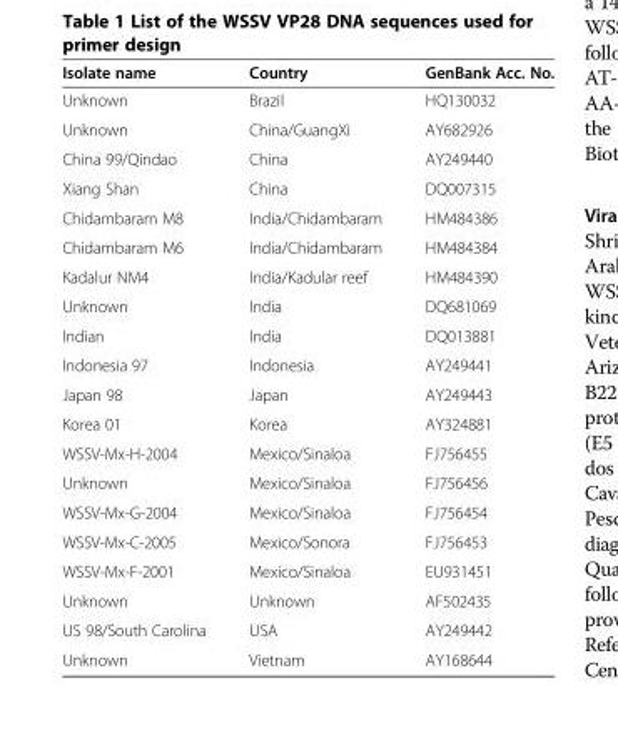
<table><thead><tr><td>Isolate name</td><td>Country</td><td>GenBank Acc. No.</td></tr></thead><tbody><tr><td>Unknown</td><td>Brazil</td><td>HQ130032</td></tr><tr><td>Unknown</td><td>China/GuangXi</td><td>AY682926</td></tr><tr><td>China 99/Qindao</td><td>China</td><td>AY249440</td></tr><tr><td>Xiang Shan</td><td>China</td><td>DQ007315</td></tr><tr><td>Chidambaram M8</td><td>India/Chidambaram</td><td>HM484386</td></tr><tr><td>Chidambaram M6</td><td>India/Chidambaram</td><td>HM484384</td></tr><tr><td>Kadalur NM4</td><td>India/Kadular reef</td><td>HM484390</td></tr><tr><td>Unknown</td><td>India</td><td>DQ681069</td></tr><tr><td>Indian</td><td>India</td><td>DQ013881</td></tr><tr><td>Indonesia 97</td><td>Indonesia</td><td>AY249441</td></tr><tr><td>Japan 98</td><td>Japan</td><td>AY249443</td></tr><tr><td>Korea 01</td><td>Korea</td><td>AY324881</td></tr><tr><td>WSSV-Mx-H-2004</td><td>Mexico/Sinaloa</td><td>FJ756455</td></tr><tr><td>Unknown</td><td>Mexico/Sinaloa</td><td>FJ756456</td></tr><tr><td>WSSV-Mx-G-2004</td><td>Mexico/Sinaloa</td><td>FJ756454</td></tr><tr><td>WSSV-Mx-C-2005</td><td>Mexico/Sonora</td><td>FJ756453</td></tr><tr><td>WSSV-Mx-F-2001</td><td>Mexico/Sinaloa</td><td>EU931451</td></tr><tr><td>Unknown</td><td>Unknown</td><td>AF502435</td></tr><tr><td>US 98/South Carolina</td><td>USA</td><td>AY249442</td></tr><tr><td>Unknown</td><td>Vietnam</td><td>AY168644</td></tr></tbody></table>